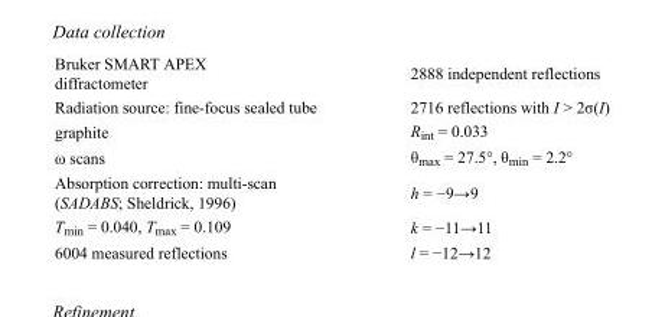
<table><tbody><tr><td>Bruker SMART APEX diffractometer</td><td>2888 independent reflections</td></tr><tr><td>Radiation source: fine-focus sealed tube</td><td>2716 reflections with I &gt; 2σ(I)</td></tr><tr><td>graphite</td><td>R<sub>int</sub> = 0.033</td></tr><tr><td>ω scans</td><td>θ<sub>max</sub> = 27.5°, θ<sub>min</sub> = 2.2°</td></tr><tr><td>Absorption correction: multi-scan (SADABS; Sheldrick, 1996)</td><td>h = −9→9</td></tr><tr><td>T<sub>min</sub> = 0.040, T<sub>max</sub> = 0.109</td><td>k = −11→11</td></tr><tr><td>6004 measured reflections</td><td>l = −12→12</td></tr></tbody></table>